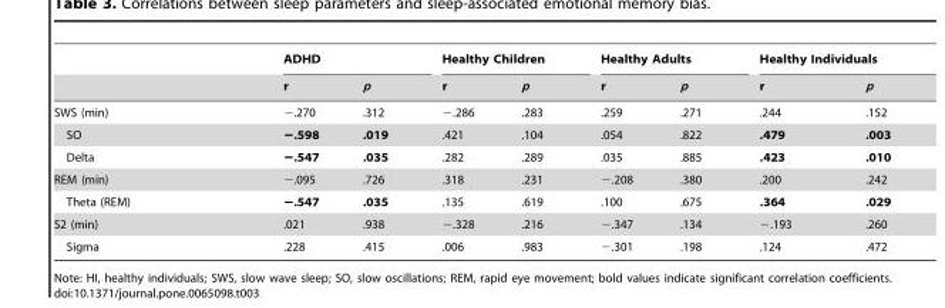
<table><thead><tr><td rowspan="2"></td><td colspan="2">ADHD</td><td colspan="2">Healthy Children</td><td colspan="2">Healthy Adults</td><td colspan="2">Healthy Individuals</td></tr><tr><td>r</td><td>p</td><td>r</td><td>p</td><td>r</td><td>p</td><td>r</td><td>p</td></tr></thead><tbody><tr><td>SWS (min)</td><td>−.270</td><td>.312</td><td>−.286</td><td>.283</td><td>.259</td><td>.271</td><td>.244</td><td>.152</td></tr><tr><td>SO</td><td>−.598</td><td>.019</td><td>.421</td><td>.104</td><td>.054</td><td>.822</td><td>.479</td><td>.003</td></tr><tr><td>Delta</td><td>−.547</td><td>.035</td><td>.282</td><td>.289</td><td>.035</td><td>.885</td><td>.423</td><td>.010</td></tr><tr><td>REM (min)</td><td>−.095</td><td>.726</td><td>.318</td><td>.231</td><td>−.208</td><td>.380</td><td>.200</td><td>.242</td></tr><tr><td>Theta (REM)</td><td>−.547</td><td>.035</td><td>.135</td><td>.619</td><td>.100</td><td>.675</td><td>.364</td><td>.029</td></tr><tr><td>S2 (min)</td><td>.021</td><td>.938</td><td>−.328</td><td>.216</td><td>−.347</td><td>.134</td><td>−.193</td><td>.260</td></tr><tr><td>Sigma</td><td>.228</td><td>.415</td><td>.006</td><td>.983</td><td>−.301</td><td>.198</td><td>.124</td><td>.472</td></tr></tbody></table>